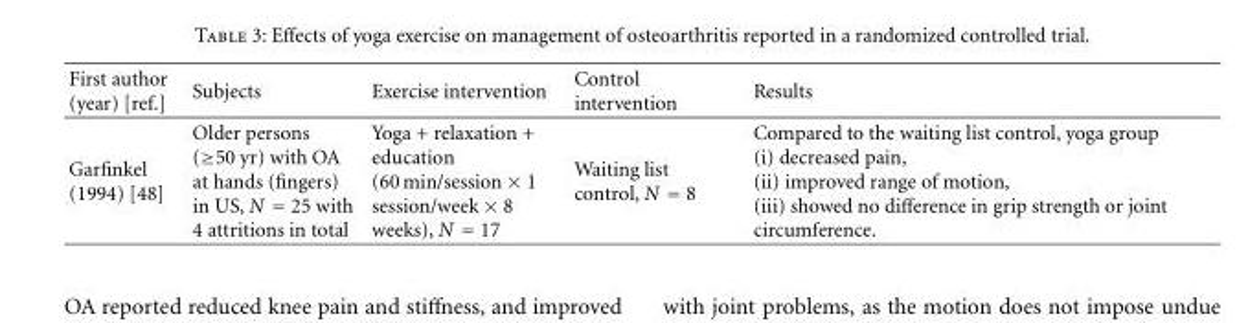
<table><thead><tr><td>First author (year) [ref.]</td><td>Subjects</td><td>Exercise intervention</td><td>Control intervention</td><td>Results</td></tr></thead><tbody><tr><td>Garfinkel (1994) [48]</td><td>Older persons (≥50 yr) with OA at hands (fingers) in US, N = 25 with 4 attritions in total</td><td>Yoga + relaxation + education (60 min/session × 1 session/week × 8 weeks), N = 17</td><td>Waiting list control, N = 8</td><td>Compared to the waiting list control, yoga group (i) decreased pain, (ii) improved range of motion, (iii) showed no difference in grip strength or joint circumference.</td></tr></tbody></table>